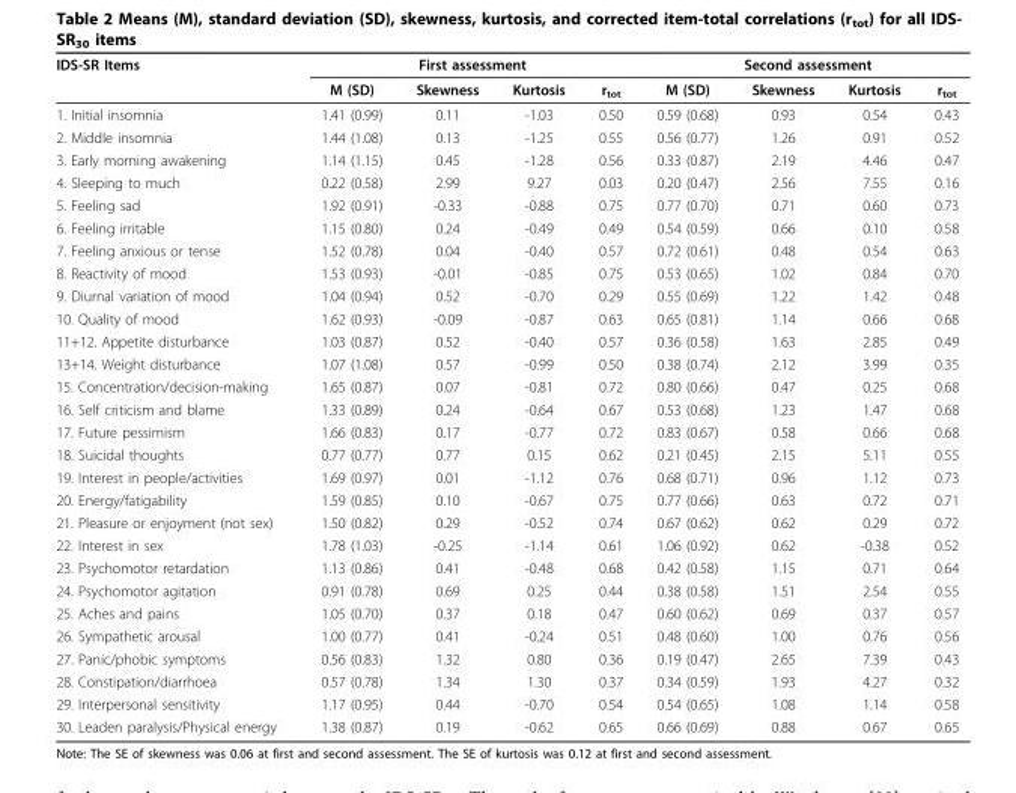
<table><thead><tr><td rowspan="2">IDS-SR Items</td><td colspan="4">First assessment</td><td colspan="4">Second assessment</td></tr><tr><td>M (SD)</td><td>Skewness</td><td>Kurtosis</td><td>r<sub>tot</sub></td><td>M (SD)</td><td>Skewness</td><td>Kurtosis</td><td>r<sub>tot</sub></td></tr></thead><tbody><tr><td>1. Initial insomnia</td><td>1.41 (0.99)</td><td>0.11</td><td>-1.03</td><td>0.50</td><td>0.59 (0.68)</td><td>0.93</td><td>0.54</td><td>0.43</td></tr><tr><td>2. Middle insomnia</td><td>1.44 (1.08)</td><td>0.13</td><td>-1.25</td><td>0.55</td><td>0.56 (0.77)</td><td>1.26</td><td>0.91</td><td>0.52</td></tr><tr><td>3. Early morning awakening</td><td>1.14 (1.15)</td><td>0.45</td><td>-1.28</td><td>0.56</td><td>0.33 (0.87)</td><td>2.19</td><td>4.46</td><td>0.47</td></tr><tr><td>4. Sleeping to much</td><td>0.22 (0.58)</td><td>2.99</td><td>9.27</td><td>0.03</td><td>0.20 (0.47)</td><td>2.56</td><td>7.55</td><td>0.16</td></tr><tr><td>5. Feeling sad</td><td>1.92 (0.91)</td><td>-0.33</td><td>-0.88</td><td>0.75</td><td>0.77 (0.70)</td><td>0.71</td><td>0.60</td><td>0.73</td></tr><tr><td>6. Feeling irritable</td><td>1.15 (0.80)</td><td>0.24</td><td>-0.49</td><td>0.49</td><td>0.54 (0.59)</td><td>0.66</td><td>0.10</td><td>0.58</td></tr><tr><td>7. Feeling anxious or tense</td><td>1.52 (0.78)</td><td>0.04</td><td>-0.40</td><td>0.57</td><td>0.72 (0.61)</td><td>0.48</td><td>0.54</td><td>0.63</td></tr><tr><td>8. Reactivity of mood</td><td>1.53 (0.93)</td><td>-0.01</td><td>-0.85</td><td>0.75</td><td>0.53 (0.65)</td><td>1.02</td><td>0.84</td><td>0.70</td></tr><tr><td>9. Diurnal variation of mood</td><td>1.04 (0.94)</td><td>0.52</td><td>-0.70</td><td>0.29</td><td>0.55 (0.69)</td><td>1.22</td><td>1.42</td><td>0.48</td></tr><tr><td>10. Quality of mood</td><td>1.62 (0.93)</td><td>-0.09</td><td>-0.87</td><td>0.63</td><td>0.65 (0.81)</td><td>1.14</td><td>0.66</td><td>0.68</td></tr><tr><td>11+12. Appetite disturbance</td><td>1.03 (0.87)</td><td>0.52</td><td>-0.40</td><td>0.57</td><td>0.36 (0.58)</td><td>1.63</td><td>2.85</td><td>0.49</td></tr><tr><td>13+14. Weight disturbance</td><td>1.07 (1.08)</td><td>0.57</td><td>-0.99</td><td>0.50</td><td>0.38 (0.74)</td><td>2.12</td><td>3.99</td><td>0.35</td></tr><tr><td>15. Concentration/decision-making</td><td>1.65 (0.87)</td><td>0.07</td><td>-0.81</td><td>0.72</td><td>0.80 (0.66)</td><td>0.47</td><td>0.25</td><td>0.68</td></tr><tr><td>16. Self criticism and blame</td><td>1.33 (0.89)</td><td>0.24</td><td>-0.64</td><td>0.67</td><td>0.53 (0.68)</td><td>1.23</td><td>1.47</td><td>0.68</td></tr><tr><td>17. Future pessimism</td><td>1.66 (0.83)</td><td>0.17</td><td>-0.77</td><td>0.72</td><td>0.83 (0.67)</td><td>0.58</td><td>0.66</td><td>0.68</td></tr><tr><td>18. Suicidal thoughts</td><td>0.77 (0.77)</td><td>0.77</td><td>0.15</td><td>0.62</td><td>0.21 (0.45)</td><td>2.15</td><td>5.11</td><td>0.55</td></tr><tr><td>19. Interest in people/activities</td><td>1.69 (0.97)</td><td>0.01</td><td>-1.12</td><td>0.76</td><td>0.68 (0.71)</td><td>0.96</td><td>1.12</td><td>0.73</td></tr><tr><td>20. Energy/fatigability</td><td>1.59 (0.85)</td><td>0.10</td><td>-0.67</td><td>0.75</td><td>0.77 (0.66)</td><td>0.63</td><td>0.72</td><td>0.71</td></tr><tr><td>21. Pleasure or enjoyment (not sex)</td><td>1.50 (0.82)</td><td>0.29</td><td>-0.52</td><td>0.74</td><td>0.67 (0.62)</td><td>0.62</td><td>0.29</td><td>0.72</td></tr><tr><td>22. Interest in sex</td><td>1.78 (1.03)</td><td>-0.25</td><td>-1.14</td><td>0.61</td><td>1.06 (0.92)</td><td>0.62</td><td>-0.38</td><td>0.52</td></tr><tr><td>23. Psychomotor retardation</td><td>1.13 (0.86)</td><td>0.41</td><td>-0.48</td><td>0.68</td><td>0.42 (0.58)</td><td>1.15</td><td>0.71</td><td>0.64</td></tr><tr><td>24. Psychomotor agitation</td><td>0.91 (0.78)</td><td>0.69</td><td>0.25</td><td>0.44</td><td>0.38 (0.58)</td><td>1.51</td><td>2.54</td><td>0.55</td></tr><tr><td>25. Aches and pains</td><td>1.05 (0.70)</td><td>0.37</td><td>0.18</td><td>0.47</td><td>0.60 (0.62)</td><td>0.69</td><td>0.37</td><td>0.57</td></tr><tr><td>26. Sympathetic arousal</td><td>1.00 (0.77)</td><td>0.41</td><td>-0.24</td><td>0.51</td><td>0.48 (0.60)</td><td>1.00</td><td>0.76</td><td>0.56</td></tr><tr><td>27. Panic/phobic symptoms</td><td>0.56 (0.83)</td><td>1.32</td><td>0.80</td><td>0.36</td><td>0.19 (0.47)</td><td>2.65</td><td>7.39</td><td>0.43</td></tr><tr><td>28. Constipation/diarrhoea</td><td>0.57 (0.78)</td><td>1.34</td><td>1.30</td><td>0.37</td><td>0.34 (0.59)</td><td>1.93</td><td>4.27</td><td>0.32</td></tr><tr><td>29. Interpersonal sensitivity</td><td>1.17 (0.95)</td><td>0.44</td><td>-0.70</td><td>0.54</td><td>0.54 (0.65)</td><td>1.08</td><td>1.14</td><td>0.58</td></tr><tr><td>30. Leaden paralysis/Physical energy</td><td>1.38 (0.87)</td><td>0.19</td><td>-0.62</td><td>0.65</td><td>0.66 (0.69)</td><td>0.88</td><td>0.67</td><td>0.65</td></tr></tbody></table>